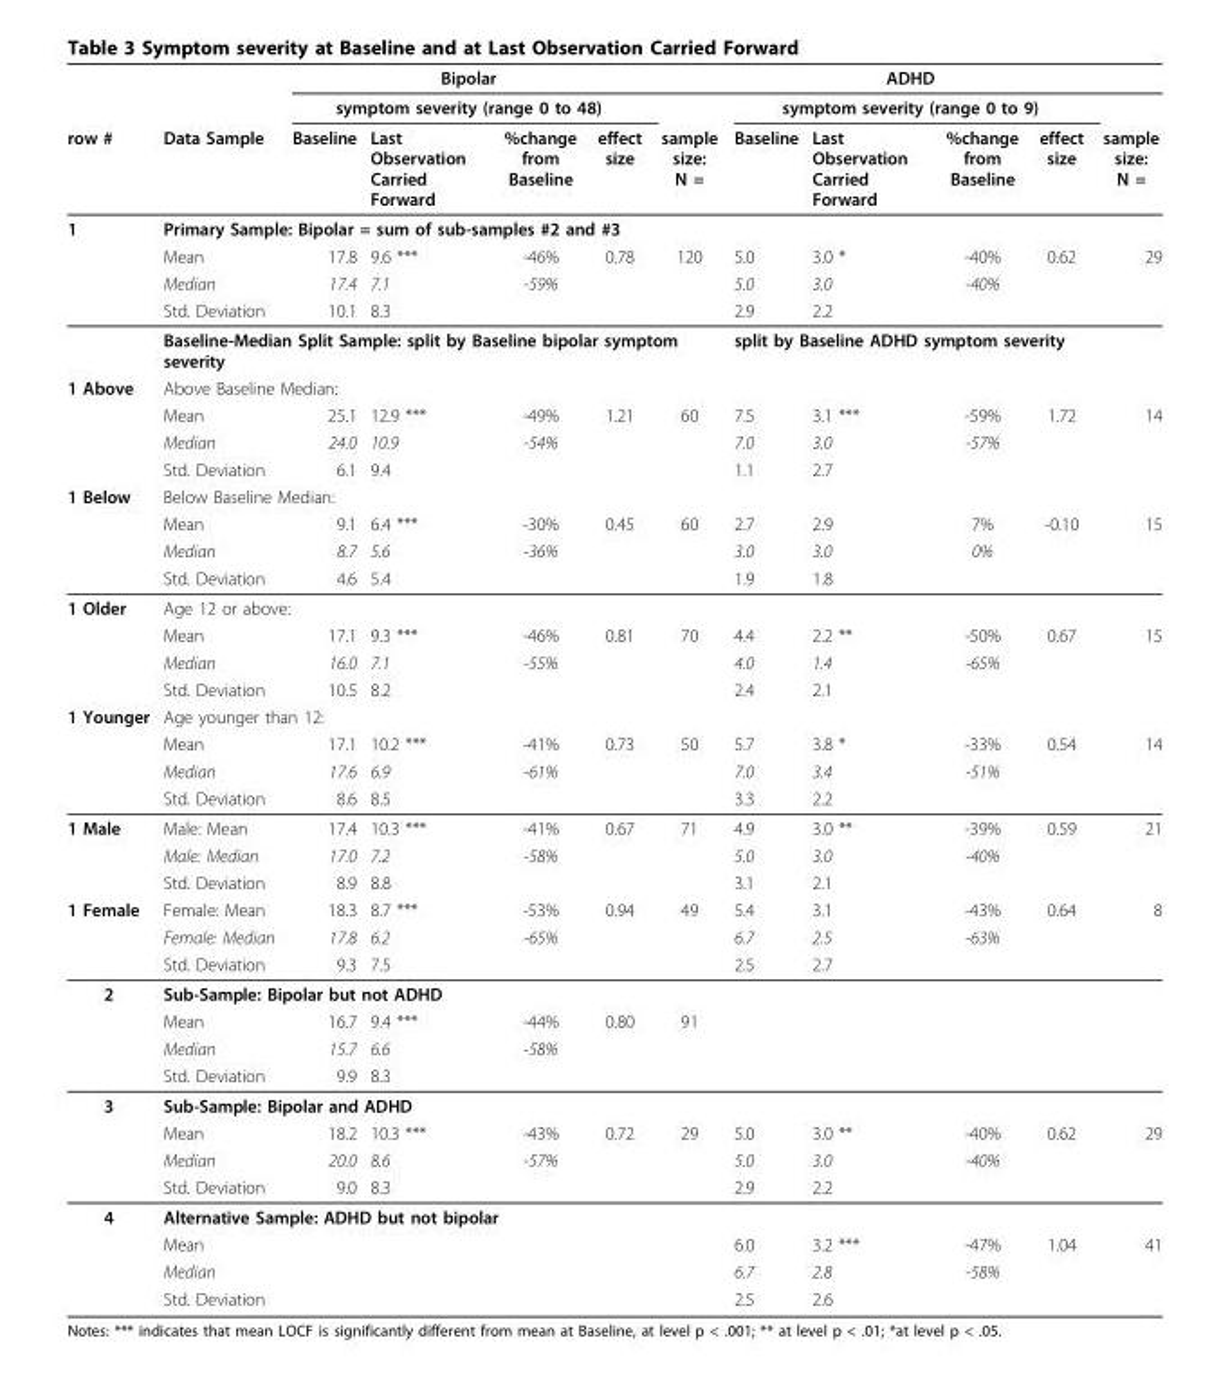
<table><thead><tr><td rowspan="3">row #</td><td rowspan="3">Data Sample</td><td rowspan="2" colspan="4">Bipolar symptom severity (range 0 to 48)</td><td rowspan="3">sample size: N =</td><td rowspan="2" colspan="4">ADHD symptom severity (range 0 to 9)</td><td rowspan="3">sample size: N =</td></tr><tr></tr><tr><td>Baseline</td><td>Last Observation Carried Forward</td><td>%change from Baseline</td><td>effect size</td><td>Baseline</td><td>Last Observation Carried Forward</td><td>%change from Baseline</td><td>effect size</td></tr></thead><tbody><tr><td rowspan="5">1</td><td colspan="6">Primary Sample: Bipolar = sum of sub-samples #2 and #3</td><td></td><td></td><td></td><td></td><td></td></tr><tr><td>Mean</td><td>17.8</td><td>9.6 ***</td><td>-46%</td><td>0.78</td><td>120</td><td>5.0</td><td>3.0 *</td><td>-40%</td><td>0.62</td><td>29</td></tr><tr><td>Median</td><td>17.4</td><td>7.1</td><td>-59%</td><td></td><td></td><td>5.0</td><td>3.0</td><td>-40%</td><td></td><td></td></tr><tr><td>Std. Deviation</td><td>10.1</td><td>8.3</td><td></td><td></td><td></td><td>2.9</td><td>2.2</td><td></td><td></td><td></td></tr><tr><td colspan="6">Baseline-Median Split Sample: split by Baseline bipolar symptom severity</td><td colspan="5">split by Baseline ADHD symptom severity</td></tr><tr><td rowspan="4">1 Above</td><td colspan="3">Above Baseline Median:</td><td></td><td></td><td></td><td></td><td></td><td></td><td></td><td></td></tr><tr><td>Mean</td><td>25.1</td><td>12.9 ***</td><td>-49%</td><td>1.21</td><td>60</td><td>7.5</td><td>3.1 ***</td><td>-59%</td><td>1.72</td><td>14</td></tr><tr><td>Median</td><td>24.0</td><td>10.9</td><td>-54%</td><td></td><td></td><td>7.0</td><td>3.0</td><td>-57%</td><td></td><td></td></tr><tr><td>Std. Deviation</td><td>6.1</td><td>9.4</td><td></td><td></td><td></td><td>1.1</td><td>2.7</td><td></td><td></td><td></td></tr><tr><td rowspan="4">1 Below</td><td colspan="3">Below Baseline Median:</td><td></td><td></td><td></td><td></td><td></td><td></td><td></td><td></td></tr><tr><td>Mean</td><td>9.1</td><td>6.4 ***</td><td>-30%</td><td>0.45</td><td>60</td><td>2.7</td><td>2.9</td><td>7%</td><td>-0.10</td><td>15</td></tr><tr><td>Median</td><td>8.7</td><td>5.6</td><td>-36%</td><td></td><td></td><td>3.0</td><td>3.0</td><td>0%</td><td></td><td></td></tr><tr><td>Std. Deviation</td><td>4.6</td><td>5.4</td><td></td><td></td><td></td><td>1.9</td><td>1.8</td><td></td><td></td><td></td></tr><tr><td rowspan="4">1 Older</td><td>Age 12 or above:</td><td></td><td></td><td></td><td></td><td></td><td></td><td></td><td></td><td></td><td></td></tr><tr><td>Mean</td><td>17.1</td><td>9.3 ***</td><td>-46%</td><td>0.81</td><td>70</td><td>4.4</td><td>2.2 **</td><td>-50%</td><td>0.67</td><td>15</td></tr><tr><td>Median</td><td>16.0</td><td>7.1</td><td>-55%</td><td></td><td></td><td>4.0</td><td>1.4</td><td>-65%</td><td></td><td></td></tr><tr><td>Std. Deviation</td><td>10.5</td><td>8.2</td><td></td><td></td><td></td><td>2.4</td><td>2.1</td><td></td><td></td><td></td></tr><tr><td rowspan="4">1 Younger</td><td colspan="3">Age younger than 12:</td><td></td><td></td><td></td><td></td><td></td><td></td><td></td><td></td></tr><tr><td>Mean</td><td>17.1</td><td>10.2 ***</td><td>-41%</td><td>0.73</td><td>50</td><td>5.7</td><td>3.8 *</td><td>-33%</td><td>0.54</td><td>14</td></tr><tr><td>Median</td><td>17.6</td><td>6.9</td><td>-61%</td><td></td><td></td><td>7.0</td><td>3.4</td><td>-51%</td><td></td><td></td></tr><tr><td>Std. Deviation</td><td>8.6</td><td>8.5</td><td></td><td></td><td></td><td>3.3</td><td>2.2</td><td></td><td></td><td></td></tr><tr><td rowspan="3">1 Male</td><td>Male: Mean</td><td>17.4</td><td>10.3 ***</td><td>-41%</td><td>0.67</td><td>71</td><td>4.9</td><td>3.0 **</td><td>-39%</td><td>0.59</td><td>21</td></tr><tr><td>Male: Median</td><td>17.0</td><td>7.2</td><td>-58%</td><td></td><td></td><td>5.0</td><td>3.0</td><td>-40%</td><td></td><td></td></tr><tr><td>Std. Deviation</td><td>8.9</td><td>8.8</td><td></td><td></td><td></td><td>3.1</td><td>2.1</td><td></td><td></td><td></td></tr><tr><td rowspan="3">1 Female</td><td>Female: Mean</td><td>18.3</td><td>8.7 ***</td><td>-53%</td><td>0.94</td><td>49</td><td>5.4</td><td>3.1</td><td>-43%</td><td>0.64</td><td>8</td></tr><tr><td>Female: Median</td><td>17.8</td><td>6.2</td><td>-65%</td><td></td><td></td><td>6.7</td><td>2.5</td><td>-63%</td><td></td><td></td></tr><tr><td>Std. Deviation</td><td>9.3</td><td>7.5</td><td></td><td></td><td></td><td>2.5</td><td>2.7</td><td></td><td></td><td></td></tr><tr><td rowspan="4">2</td><td colspan="3">Sub-Sample: Bipolar but not ADHD</td><td></td><td></td><td></td><td></td><td></td><td></td><td></td><td></td></tr><tr><td>Mean</td><td>16.7</td><td>9.4 ***</td><td>-44%</td><td>0.80</td><td>91</td><td></td><td></td><td></td><td></td><td></td></tr><tr><td>Median</td><td>15.7</td><td>6.6</td><td>-58%</td><td></td><td></td><td></td><td></td><td></td><td></td><td></td></tr><tr><td>Std. Deviation</td><td>9.9</td><td>8.3</td><td></td><td></td><td></td><td></td><td></td><td></td><td></td><td></td></tr><tr><td rowspan="4">3</td><td colspan="3">Sub-Sample: Bipolar and ADHD</td><td></td><td></td><td></td><td></td><td></td><td></td><td></td><td></td></tr><tr><td>Mean</td><td>18.2</td><td>10.3 ***</td><td>-43%</td><td>0.72</td><td>29</td><td>5.0</td><td>3.0 **</td><td>-40%</td><td>0.62</td><td>29</td></tr><tr><td>Median</td><td>20.0</td><td>8.6</td><td>-57%</td><td></td><td></td><td>5.0</td><td>3.0</td><td>-40%</td><td></td><td></td></tr><tr><td>Std. Deviation</td><td>9.0</td><td>8.3</td><td></td><td></td><td></td><td>2.9</td><td>2.2</td><td></td><td></td><td></td></tr><tr><td rowspan="4">4</td><td colspan="3">Alternative Sample: ADHD but not bipolar</td><td></td><td></td><td></td><td></td><td></td><td></td><td></td><td></td></tr><tr><td>Mean</td><td></td><td></td><td></td><td></td><td></td><td>6.0</td><td>3.2 ***</td><td>-47%</td><td>1.04</td><td>41</td></tr><tr><td>Median</td><td></td><td></td><td></td><td></td><td></td><td>6.7</td><td>2.8</td><td>-58%</td><td></td><td></td></tr><tr><td>Std. Deviation</td><td></td><td></td><td></td><td></td><td></td><td>2.5</td><td>2.6</td><td></td><td></td><td></td></tr></tbody></table>